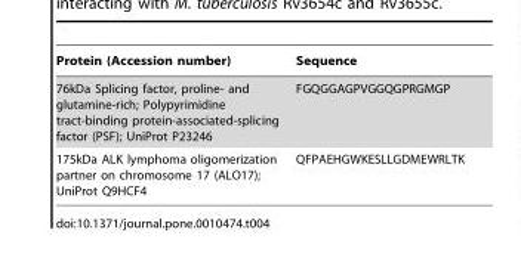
<table><thead><tr><td>Protein (Accession number)</td><td>Sequence</td></tr></thead><tbody><tr><td>76kDa Splicing factor, proline- and glutamine-rich; Polypyrimidine tract-binding protein-associated-splicing factor (PSF); UniProt P23246</td><td>FGQGGAGPVGGQGPRGMGP</td></tr><tr><td>175kDa ALK lymphoma oligomerization partner on chromosome 17 (ALO17); UniProt Q9HCF4</td><td>QFPAEHGWKESLLGDMEWRLTK</td></tr></tbody></table>